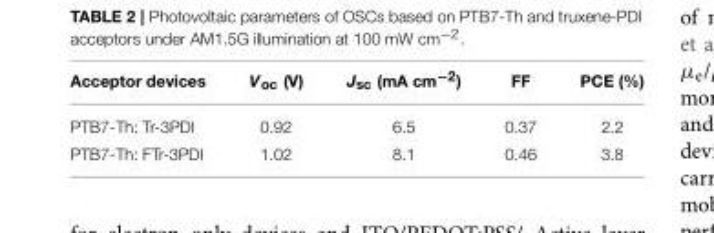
<table><thead><tr><td>Acceptor devices</td><td>V<sub>oc</sub> (V)</td><td>J<sub>sc</sub> (mA cm<sup>−2</sup>)</td><td>FF</td><td>PCE (%)</td></tr></thead><tbody><tr><td>PTB7-Th: Tr-3PDI</td><td>0.92</td><td>6.5</td><td>0.37</td><td>2.2</td></tr><tr><td>PTB7-Th: FTr-3PDI</td><td>1.02</td><td>8.1</td><td>0.46</td><td>3.8</td></tr></tbody></table>